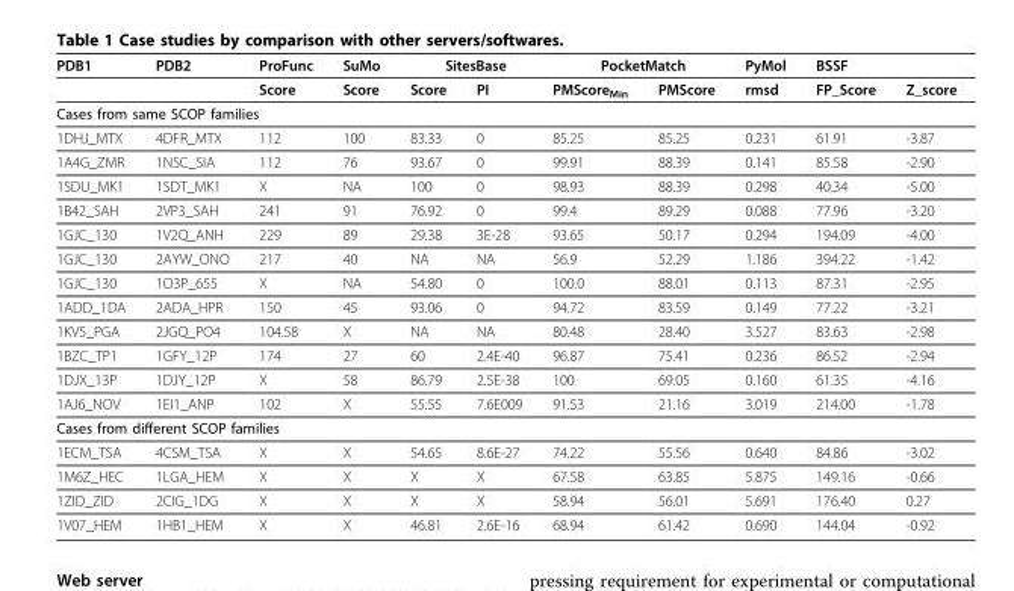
<table><thead><tr><td rowspan="2">PDB1</td><td rowspan="2">PDB2</td><td rowspan="2">ProFunc Score</td><td rowspan="2">SuMo Score</td><td colspan="2">SitesBase</td><td colspan="2">PocketMatch</td><td rowspan="2">PyMol rmsd</td><td rowspan="2">BSSF FP_Score</td><td rowspan="2">Z_score</td></tr><tr><td>Score</td><td>PI</td><td>PMScoreMin</td><td>PMScore</td></tr></thead><tbody><tr><td colspan="11">Cases from same SCOP families</td></tr><tr><td>1DHJ_MTX</td><td>4DFR_MTX</td><td>112</td><td>100</td><td>83.33</td><td>0</td><td>85.25</td><td>85.25</td><td>0.231</td><td>61.91</td><td>-3.87</td></tr><tr><td>1A4G_ZMR</td><td>1NSC_SIA</td><td>112</td><td>76</td><td>93.67</td><td>0</td><td>99.91</td><td>88.39</td><td>0.141</td><td>85.58</td><td>-2.90</td></tr><tr><td>1SDU_MK1</td><td>1SDT_MK1</td><td>X</td><td>NA</td><td>100</td><td>0</td><td>98.93</td><td>88.39</td><td>0.298</td><td>40.34</td><td>-5.00</td></tr><tr><td>1B42_SAH</td><td>2VP3_SAH</td><td>241</td><td>91</td><td>76.92</td><td>0</td><td>99.4</td><td>89.29</td><td>0.088</td><td>77.96</td><td>-3.20</td></tr><tr><td>1GJC_130</td><td>1V2Q_ANH</td><td>229</td><td>89</td><td>29.38</td><td>3E-28</td><td>93.65</td><td>50.17</td><td>0.294</td><td>194.09</td><td>-4.00</td></tr><tr><td>1GJC_130</td><td>2AYW_ONO</td><td>217</td><td>40</td><td>NA</td><td>NA</td><td>56.9</td><td>52.29</td><td>1.186</td><td>394.22</td><td>-1.42</td></tr><tr><td>1GJC_130</td><td>1O3P_655</td><td>X</td><td>NA</td><td>54.80</td><td>0</td><td>100.0</td><td>88.01</td><td>0.113</td><td>87.31</td><td>-2.95</td></tr><tr><td>1ADD_1DA</td><td>2ADA_HPR</td><td>150</td><td>45</td><td>93.06</td><td>0</td><td>94.72</td><td>83.59</td><td>0.149</td><td>77.22</td><td>-3.21</td></tr><tr><td>1KV5_PGA</td><td>2JGQ_PO4</td><td>104.58</td><td>X</td><td>NA</td><td>NA</td><td>80.48</td><td>28.40</td><td>3.527</td><td>83.63</td><td>-2.98</td></tr><tr><td>1BZC_TP1</td><td>1GFY_12P</td><td>174</td><td>27</td><td>60</td><td>2.4E-40</td><td>96.87</td><td>75.41</td><td>0.236</td><td>86.52</td><td>-2.94</td></tr><tr><td>1DJX_13P</td><td>1DJY_12P</td><td>X</td><td>58</td><td>86.79</td><td>2.5E-38</td><td>100</td><td>69.05</td><td>0.160</td><td>61.35</td><td>-4.16</td></tr><tr><td>1AJ6_NOV</td><td>1EI1_ANP</td><td>102</td><td>X</td><td>55.55</td><td>7.6E009</td><td>91.53</td><td>21.16</td><td>3.019</td><td>214.00</td><td>-1.78</td></tr><tr><td colspan="11">Cases from different SCOP families</td></tr><tr><td>1ECM_TSA</td><td>4CSM_TSA</td><td>X</td><td>X</td><td>54.65</td><td>8.6E-27</td><td>74.22</td><td>55.56</td><td>0.640</td><td>84.86</td><td>-3.02</td></tr><tr><td>1M6Z_HEC</td><td>1LGA_HEM</td><td>X</td><td>X</td><td>X</td><td>X</td><td>67.58</td><td>63.85</td><td>5.875</td><td>149.16</td><td>-0.66</td></tr><tr><td>1ZID_ZID</td><td>2CIG_1DG</td><td>X</td><td>X</td><td>X</td><td>X</td><td>58.94</td><td>56.01</td><td>5.691</td><td>176.40</td><td>0.27</td></tr><tr><td>1V07_HEM</td><td>1HB1_HEM</td><td>X</td><td>X</td><td>46.81</td><td>2.6E-16</td><td>68.94</td><td>61.42</td><td>0.690</td><td>144.04</td><td>-0.92</td></tr></tbody></table>